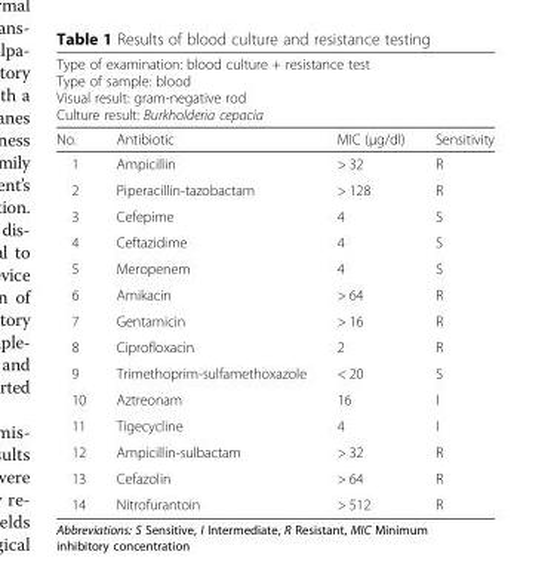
<table><thead><tr><td colspan="4">Type of examination: blood culture + resistance test Type of sample: blood Visual result: gram-negative rod Culture result: Burkholderia cepacia</td></tr><tr><td>No.</td><td>Antibiotic</td><td>MIC (μg/dl)</td><td>Sensitivity</td></tr></thead><tbody><tr><td>1</td><td>Ampicillin</td><td>&gt; 32</td><td>R</td></tr><tr><td>2</td><td>Piperacillin-tazobactam</td><td>&gt; 128</td><td>R</td></tr><tr><td>3</td><td>Cefepime</td><td>4</td><td>S</td></tr><tr><td>4</td><td>Ceftazidime</td><td>4</td><td>S</td></tr><tr><td>5</td><td>Meropenem</td><td>4</td><td>S</td></tr><tr><td>6</td><td>Amikacin</td><td>&gt; 64</td><td>R</td></tr><tr><td>7</td><td>Gentamicin</td><td>&gt; 16</td><td>R</td></tr><tr><td>8</td><td>Ciprofloxacin</td><td>2</td><td>R</td></tr><tr><td>9</td><td>Trimethoprim-sulfamethoxazole</td><td>&lt; 20</td><td>S</td></tr><tr><td>10</td><td>Aztreonam</td><td>16</td><td>I</td></tr><tr><td>11</td><td>Tigecycline</td><td>4</td><td>I</td></tr><tr><td>12</td><td>Ampicillin-sulbactam</td><td>&gt; 32</td><td>R</td></tr><tr><td>13</td><td>Cefazolin</td><td>&gt; 64</td><td>R</td></tr><tr><td>14</td><td>Nitrofurantoin</td><td>&gt; 512</td><td>R</td></tr></tbody></table>